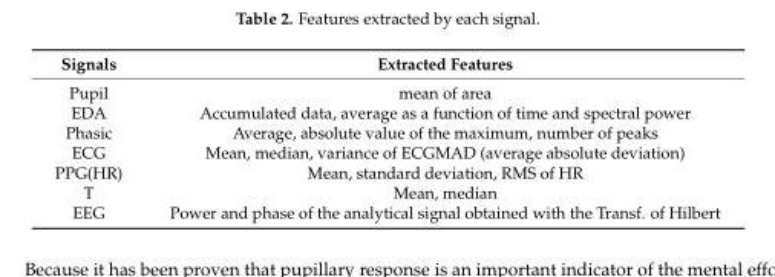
<table><thead><tr><td>Signals</td><td>Extracted Features</td></tr></thead><tbody><tr><td>Pupil</td><td>mean of area</td></tr><tr><td>EDA</td><td>Accumulated data, average as a function of time and spectral power</td></tr><tr><td>Phasic</td><td>Average, absolute value of the maximum, number of peaks</td></tr><tr><td>ECG</td><td>Mean, median, variance of ECGMAD (average absolute deviation)</td></tr><tr><td>PPG(HR)</td><td>Mean, standard deviation, RMS of HR</td></tr><tr><td>T</td><td>Mean, median</td></tr><tr><td>EEG</td><td>Power and phase of the analytical signal obtained with the Transf. of Hilbert</td></tr></tbody></table>